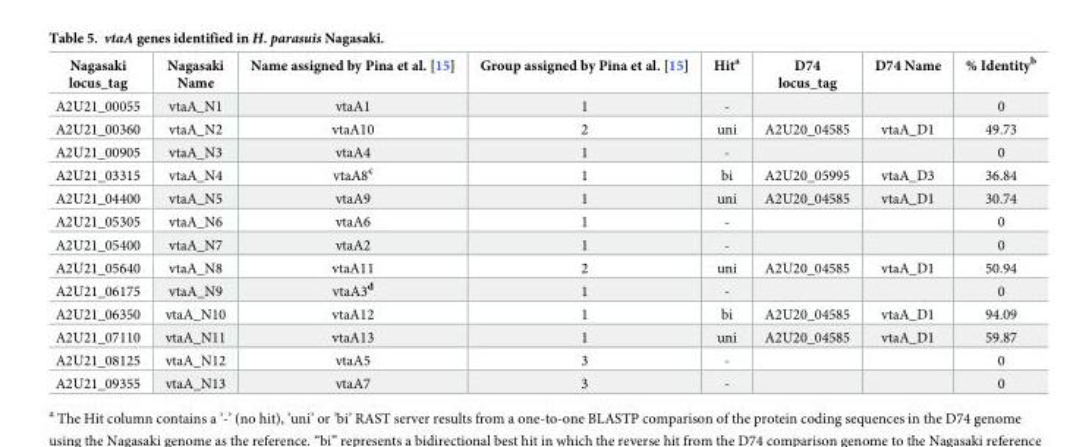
<table><thead><tr><td>Nagasaki locus_tag</td><td>Nagasaki Name</td><td>Name assigned by Pina et al. [15]</td><td>Group assigned by Pina et al. [15]</td><td>Hit<sup>a</sup></td><td>D74 locus_tag</td><td>D74 Name</td><td>% Identity<sup>b</sup></td></tr></thead><tbody><tr><td>A2U21_00055</td><td>vtaA_N1</td><td>vtaA1</td><td>1</td><td>-</td><td></td><td></td><td>0</td></tr><tr><td>A2U21_00360</td><td>vtaA_N2</td><td>vtaA10</td><td>2</td><td>uni</td><td>A2U20_04585</td><td>vtaA_D1</td><td>49.73</td></tr><tr><td>A2U21_00905</td><td>vtaA_N3</td><td>vtaA4</td><td>1</td><td>-</td><td></td><td></td><td>0</td></tr><tr><td>A2U21_03315</td><td>vtaA_N4</td><td>vtaA8<sup>c</sup></td><td>1</td><td>bi</td><td>A2U20_05995</td><td>vtaA_D3</td><td>36.84</td></tr><tr><td>A2U21_04400</td><td>vtaA_N5</td><td>vtaA9</td><td>1</td><td>uni</td><td>A2U20_04585</td><td>vtaA_D1</td><td>30.74</td></tr><tr><td>A2U21_05305</td><td>vtaA_N6</td><td>vtaA6</td><td>1</td><td>-</td><td></td><td></td><td>0</td></tr><tr><td>A2U21_05400</td><td>vtaA_N7</td><td>vtaA2</td><td>1</td><td>-</td><td></td><td></td><td>0</td></tr><tr><td>A2U21_05640</td><td>vtaA_N8</td><td>vtaA11</td><td>2</td><td>uni</td><td>A2U20_04585</td><td>vtaA_D1</td><td>50.94</td></tr><tr><td>A2U21_06175</td><td>vtaA_N9</td><td>vtaA3<sup>d</sup></td><td>1</td><td>-</td><td></td><td></td><td>0</td></tr><tr><td>A2U21_06350</td><td>vtaA_N10</td><td>vtaA12</td><td>1</td><td>bi</td><td>A2U20_04585</td><td>vtaA_D1</td><td>94.09</td></tr><tr><td>A2U21_07110</td><td>vtaA_N11</td><td>vtaA13</td><td>1</td><td>uni</td><td>A2U20_04585</td><td>vtaA_D1</td><td>59.87</td></tr><tr><td>A2U21_08125</td><td>vtaA_N12</td><td>vtaA5</td><td>3</td><td>-</td><td></td><td></td><td>0</td></tr><tr><td>A2U21_09355</td><td>vtaA_N13</td><td>vtaA7</td><td>3</td><td>-</td><td></td><td></td><td>0</td></tr></tbody></table>